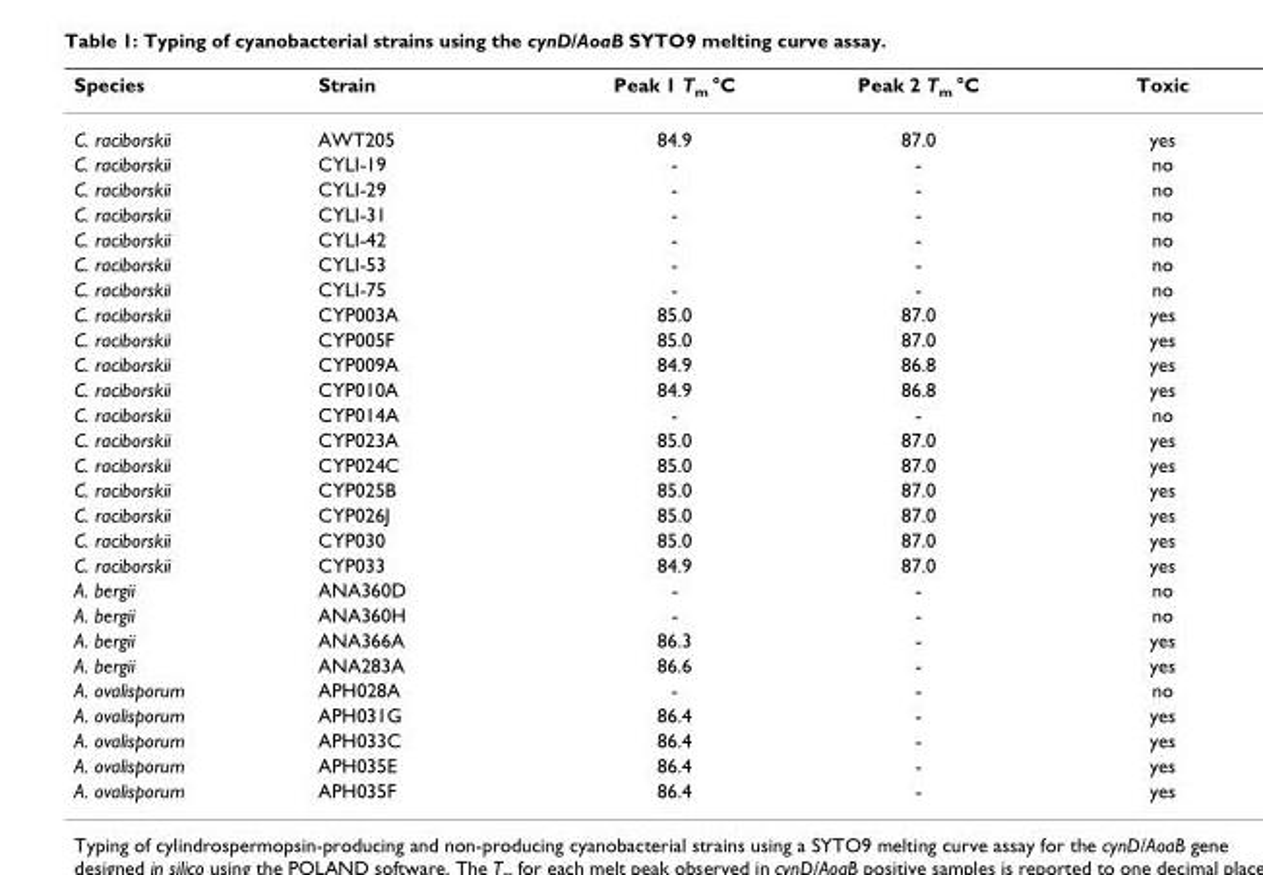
<table><thead><tr><td>Species</td><td>Strain</td><td>Peak 1 T<sub>m</sub> °C</td><td>Peak 2 T<sub>m</sub> °C</td><td>Toxic</td></tr></thead><tbody><tr><td>C. raciborskii</td><td>AWT205</td><td>84.9</td><td>87.0</td><td>yes</td></tr><tr><td>C. raciborskii</td><td>CYLI-19</td><td>-</td><td>-</td><td>no</td></tr><tr><td>C. raciborskii</td><td>CYLI-29</td><td>-</td><td>-</td><td>no</td></tr><tr><td>C. raciborskii</td><td>CYLI-31</td><td>-</td><td>-</td><td>no</td></tr><tr><td>C. raciborskii</td><td>CYLI-42</td><td>-</td><td>-</td><td>no</td></tr><tr><td>C. raciborskii</td><td>CYLI-53</td><td>-</td><td>-</td><td>no</td></tr><tr><td>C. raciborskii</td><td>CYLI-75</td><td>-</td><td>-</td><td>no</td></tr><tr><td>C. raciborskii</td><td>CYP003A</td><td>85.0</td><td>87.0</td><td>yes</td></tr><tr><td>C. raciborskii</td><td>CYP005F</td><td>85.0</td><td>87.0</td><td>yes</td></tr><tr><td>C. raciborskii</td><td>CYP009A</td><td>84.9</td><td>86.8</td><td>yes</td></tr><tr><td>C. raciborskii</td><td>CYP010A</td><td>84.9</td><td>86.8</td><td>yes</td></tr><tr><td>C. raciborskii</td><td>CYP014A</td><td>-</td><td>-</td><td>no</td></tr><tr><td>C. raciborskii</td><td>CYP023A</td><td>85.0</td><td>87.0</td><td>yes</td></tr><tr><td>C. raciborskii</td><td>CYP024C</td><td>85.0</td><td>87.0</td><td>yes</td></tr><tr><td>C. raciborskii</td><td>CYP025B</td><td>85.0</td><td>87.0</td><td>yes</td></tr><tr><td>C. raciborskii</td><td>CYP026J</td><td>85.0</td><td>87.0</td><td>yes</td></tr><tr><td>C. raciborskii</td><td>CYP030</td><td>85.0</td><td>87.0</td><td>yes</td></tr><tr><td>C. raciborskii</td><td>CYP033</td><td>84.9</td><td>87.0</td><td>yes</td></tr><tr><td>A. bergii</td><td>ANA360D</td><td>-</td><td>-</td><td>no</td></tr><tr><td>A. bergii</td><td>ANA360H</td><td>-</td><td>-</td><td>no</td></tr><tr><td>A. bergii</td><td>ANA366A</td><td>86.3</td><td>-</td><td>yes</td></tr><tr><td>A. bergii</td><td>ANA283A</td><td>86.6</td><td>-</td><td>yes</td></tr><tr><td>A. ovalisporum</td><td>APH028A</td><td>-</td><td>-</td><td>no</td></tr><tr><td>A. ovalisporum</td><td>APH031G</td><td>86.4</td><td>-</td><td>yes</td></tr><tr><td>A. ovalisporum</td><td>APH033C</td><td>86.4</td><td>-</td><td>yes</td></tr><tr><td>A. ovalisporum</td><td>APH035E</td><td>86.4</td><td>-</td><td>yes</td></tr><tr><td>A. ovalisporum</td><td>APH035F</td><td>86.4</td><td>-</td><td>yes</td></tr></tbody></table>